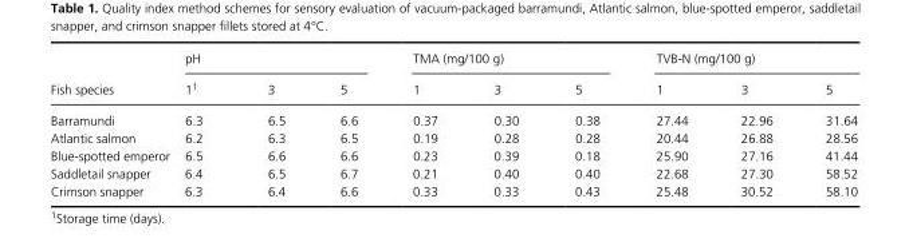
<table><thead><tr><td rowspan="2">Fish species</td><td colspan="3">pH</td><td colspan="3">TMA (mg/100 g)</td><td colspan="3">TVB- N (mg/100 g)</td></tr><tr><td>11</td><td>3</td><td>5</td><td>1</td><td>3</td><td>5</td><td>1</td><td>3</td><td>5</td></tr></thead><tbody><tr><td>Barramundi</td><td>6.3</td><td>6.5</td><td>6.6</td><td>0.37</td><td>0.30</td><td>0.38</td><td>27.44</td><td>22.96</td><td>31.64</td></tr><tr><td>Atlantic salmon</td><td>6.2</td><td>6.3</td><td>6.5</td><td>0.19</td><td>0.28</td><td>0.28</td><td>20.44</td><td>26.88</td><td>28.56</td></tr><tr><td>Blue- spotted emperor</td><td>6.5</td><td>6.6</td><td>6.6</td><td>0.23</td><td>0.39</td><td>0.18</td><td>25.90</td><td>27.16</td><td>41.44</td></tr><tr><td>Saddletail snapper</td><td>6.4</td><td>6.5</td><td>6.7</td><td>0.21</td><td>0.40</td><td>0.40</td><td>22.68</td><td>27.30</td><td>58.52</td></tr><tr><td>Crimson snapper</td><td>6.3</td><td>6.4</td><td>6.6</td><td>0.33</td><td>0.33</td><td>0.43</td><td>25.48</td><td>30.52</td><td>58.10</td></tr></tbody></table>